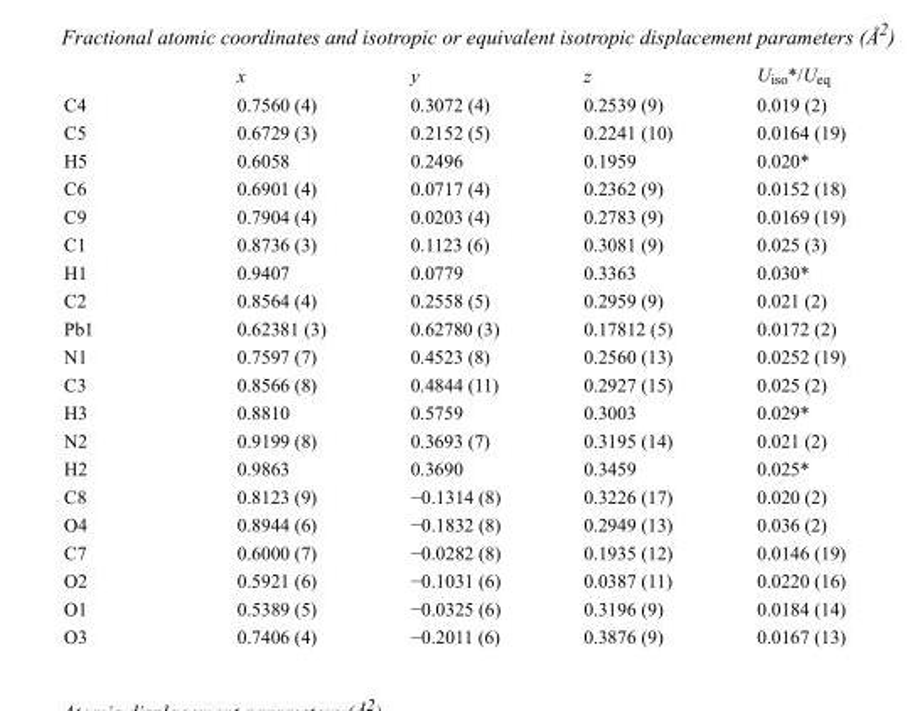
<table><thead><tr><td></td><td>x</td><td>y</td><td>z</td><td>U<sub>iso</sub>*/U<sub>eq</sub></td></tr></thead><tbody><tr><td>C4</td><td>0.7560 (4)</td><td>0.3072 (4)</td><td>0.2539 (9)</td><td>0.019 (2)</td></tr><tr><td>C5</td><td>0.6729 (3)</td><td>0.2152 (5)</td><td>0.2241 (10)</td><td>0.0164 (19)</td></tr><tr><td>H5</td><td>0.6058</td><td>0.2496</td><td>0.1959</td><td>0.020*</td></tr><tr><td>C6</td><td>0.6901 (4)</td><td>0.0717 (4)</td><td>0.2362 (9)</td><td>0.0152 (18)</td></tr><tr><td>C9</td><td>0.7904 (4)</td><td>0.0203 (4)</td><td>0.2783 (9)</td><td>0.0169 (19)</td></tr><tr><td>C1</td><td>0.8736 (3)</td><td>0.1123 (6)</td><td>0.3081 (9)</td><td>0.025 (3)</td></tr><tr><td>H1</td><td>0.9407</td><td>0.0779</td><td>0.3363</td><td>0.030*</td></tr><tr><td>C2</td><td>0.8564 (4)</td><td>0.2558 (5)</td><td>0.2959 (9)</td><td>0.021 (2)</td></tr><tr><td>Pb1</td><td>0.62381 (3)</td><td>0.62780 (3)</td><td>0.17812 (5)</td><td>0.0172 (2)</td></tr><tr><td>N1</td><td>0.7597 (7)</td><td>0.4523 (8)</td><td>0.2560 (13)</td><td>0.0252 (19)</td></tr><tr><td>C3</td><td>0.8566 (8)</td><td>0.4844 (11)</td><td>0.2927 (15)</td><td>0.025 (2)</td></tr><tr><td>H3</td><td>0.8810</td><td>0.5759</td><td>0.3003</td><td>0.029*</td></tr><tr><td>N2</td><td>0.9199 (8)</td><td>0.3693 (7)</td><td>0.3195 (14)</td><td>0.021 (2)</td></tr><tr><td>H2</td><td>0.9863</td><td>0.3690</td><td>0.3459</td><td>0.025*</td></tr><tr><td>C8</td><td>0.8123 (9)</td><td>−0.1314 (8)</td><td>0.3226 (17)</td><td>0.020 (2)</td></tr><tr><td>O4</td><td>0.8944 (6)</td><td>−0.1832 (8)</td><td>0.2949 (13)</td><td>0.036 (2)</td></tr><tr><td>C7</td><td>0.6000 (7)</td><td>−0.0282 (8)</td><td>0.1935 (12)</td><td>0.0146 (19)</td></tr><tr><td>O2</td><td>0.5921 (6)</td><td>−0.1031 (6)</td><td>0.0387 (11)</td><td>0.0220 (16)</td></tr><tr><td>O1</td><td>0.5389 (5)</td><td>−0.0325 (6)</td><td>0.3196 (9)</td><td>0.0184 (14)</td></tr><tr><td>O3</td><td>0.7406 (4)</td><td>−0.2011 (6)</td><td>0.3876 (9)</td><td>0.0167 (13)</td></tr></tbody></table>